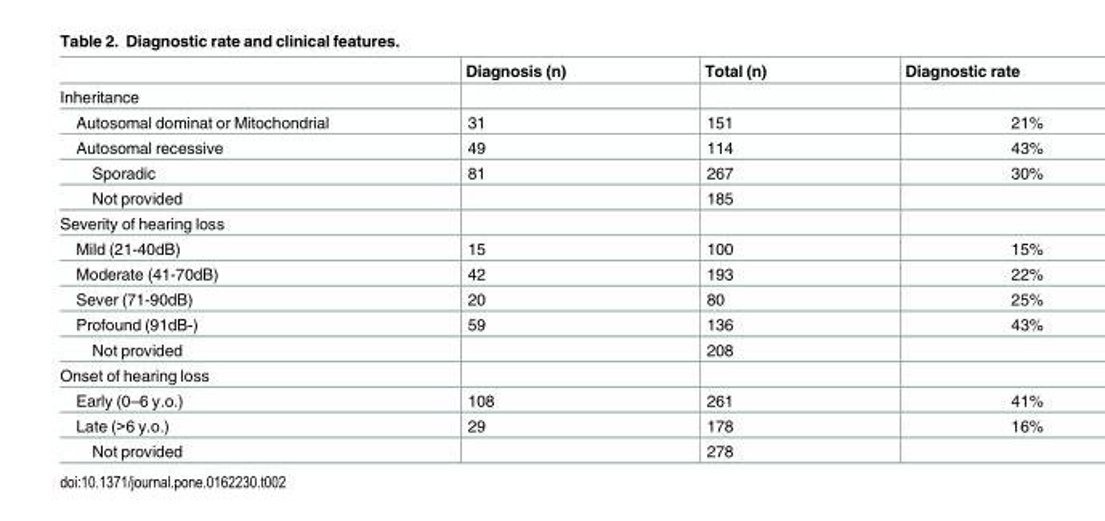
<table><thead><tr><td></td><td>Diagnosis (n)</td><td>Total (n)</td><td>Diagnostic rate</td></tr></thead><tbody><tr><td colspan="4">Inheritance</td></tr><tr><td>Autosomal dominat or Mitochondrial</td><td>31</td><td>151</td><td>21%</td></tr><tr><td>Autosomal recessive</td><td>49</td><td>114</td><td>43%</td></tr><tr><td>Sporadic</td><td>81</td><td>267</td><td>30%</td></tr><tr><td>Not provided</td><td></td><td>185</td><td></td></tr><tr><td colspan="4">Severity of hearing loss</td></tr><tr><td>Mild (21-40dB)</td><td>15</td><td>100</td><td>15%</td></tr><tr><td>Moderate (41-70dB)</td><td>42</td><td>193</td><td>22%</td></tr><tr><td>Sever (71-90dB)</td><td>20</td><td>80</td><td>25%</td></tr><tr><td>Profound (91dB-)</td><td>59</td><td>136</td><td>43%</td></tr><tr><td>Not provided</td><td></td><td>208</td><td></td></tr><tr><td colspan="4">Onset of hearing loss</td></tr><tr><td>Early (0–6 y.o.)</td><td>108</td><td>261</td><td>41%</td></tr><tr><td>Late (&gt;6 y.o.)</td><td>29</td><td>178</td><td>16%</td></tr><tr><td>Not provided</td><td></td><td>278</td><td></td></tr></tbody></table>